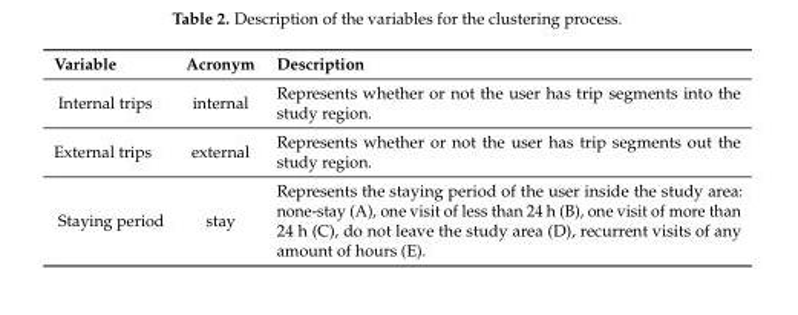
<table><thead><tr><td>Variable</td><td>Acronym</td><td>Description</td></tr></thead><tbody><tr><td>Internal trips</td><td>internal</td><td>Represents whether or not the user has trip segments into the study region.</td></tr><tr><td>External trips</td><td>external</td><td>Represents whether or not the user has trip segments out the study region.</td></tr><tr><td>Staying period</td><td>stay</td><td>Represents the staying period of the user inside the study area: none-stay (A), one visit of less than 24 h (B), one visit of more than 24 h (C), do not leave the study area (D), recurrent visits of any amount of hours (E).</td></tr></tbody></table>